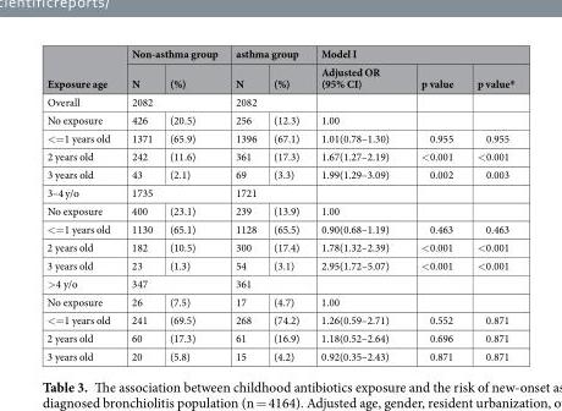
<table><thead><tr><td rowspan="2">Exposure age</td><td colspan="2">Non-asthma group</td><td colspan="2">asthma group</td><td colspan="3">Model I</td></tr><tr><td>N</td><td>(%)</td><td>N</td><td>(%)</td><td>Adjusted OR (95% CI)</td><td>p value</td><td>p value*</td></tr></thead><tbody><tr><td>Overall</td><td colspan="2">2082</td><td colspan="2">2082</td><td></td><td></td><td></td></tr><tr><td>No exposure</td><td>426</td><td>(20.5)</td><td>256</td><td>(12.3)</td><td>1.00</td><td></td><td></td></tr><tr><td>&lt;=1 years old</td><td>1371</td><td>(65.9)</td><td>1396</td><td>(67.1)</td><td>1.01(0.78–1.30)</td><td>0.955</td><td>0.955</td></tr><tr><td>2 years old</td><td>242</td><td>(11.6)</td><td>361</td><td>(17.3)</td><td>1.67(1.27–2.19)</td><td>&lt;0.001</td><td>&lt;0.001</td></tr><tr><td>3 years old</td><td>43</td><td>(2.1)</td><td>69</td><td>(3.3)</td><td>1.99(1.29–3.09)</td><td>0.002</td><td>0.003</td></tr><tr><td>3–4 y/o</td><td colspan="2">1735</td><td colspan="2">1721</td><td></td><td></td><td></td></tr><tr><td>No exposure</td><td>400</td><td>(23.1)</td><td>239</td><td>(13.9)</td><td>1.00</td><td></td><td></td></tr><tr><td>&lt;=1 years old</td><td>1130</td><td>(65.1)</td><td>1128</td><td>(65.5)</td><td>0.90(0.68–1.19)</td><td>0.463</td><td>0.463</td></tr><tr><td>2 years old</td><td>182</td><td>(10.5)</td><td>300</td><td>(17.4)</td><td>1.78(1.32–2.39)</td><td>&lt;0.001</td><td>&lt;0.001</td></tr><tr><td>3 years old</td><td>23</td><td>(1.3)</td><td>54</td><td>(3.1)</td><td>2.95(1.72–5.07)</td><td>&lt;0.001</td><td>&lt;0.001</td></tr><tr><td>&gt;4 y/o</td><td colspan="2">347</td><td colspan="2">361</td><td></td><td></td><td></td></tr><tr><td>No exposure</td><td>26</td><td>(7.5)</td><td>17</td><td>(4.7)</td><td>1.00</td><td></td><td></td></tr><tr><td>&lt;=1 years old</td><td>241</td><td>(69.5)</td><td>268</td><td>(74.2)</td><td>1.26(0.59–2.71)</td><td>0.552</td><td>0.871</td></tr><tr><td>2 years old</td><td>60</td><td>(17.3)</td><td>61</td><td>(16.9)</td><td>1.18(0.52–2.64)</td><td>0.696</td><td>0.871</td></tr><tr><td>3 years old</td><td>20</td><td>(5.8)</td><td>15</td><td>(4.2)</td><td>0.92(0.35–2.43)</td><td>0.871</td><td>0.871</td></tr></tbody></table>